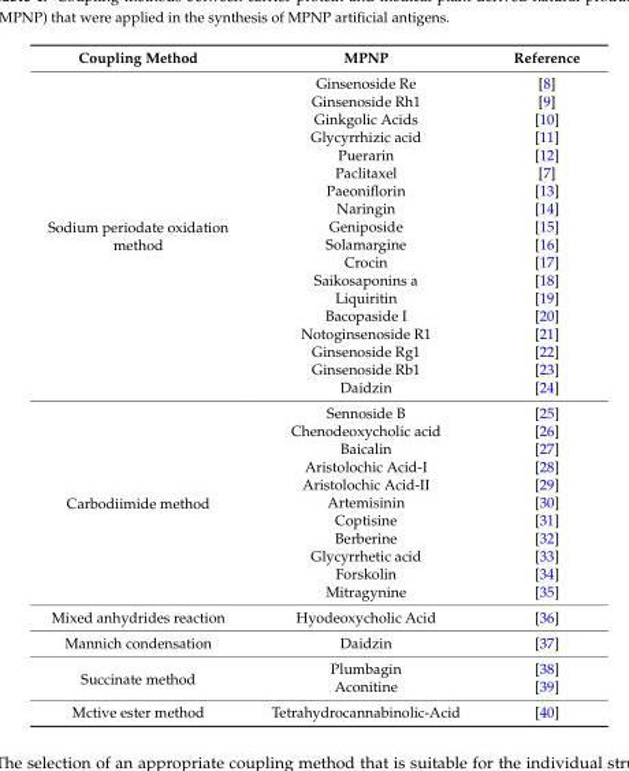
<table><thead><tr><td>Coupling Method</td><td>MPNP</td><td>Reference</td></tr></thead><tbody><tr><td rowspan="18">Sodium periodate oxidation method</td><td>Ginsenoside Re</td><td>[8]</td></tr><tr><td>Ginsenoside Rh1</td><td>[9]</td></tr><tr><td>Ginkgolic Acids</td><td>[10]</td></tr><tr><td>Glycyrrhizic acid</td><td>[11]</td></tr><tr><td>Puerarin</td><td>[12]</td></tr><tr><td>Paclitaxel</td><td>[7]</td></tr><tr><td>Paeoniflorin</td><td>[13]</td></tr><tr><td>Naringin</td><td>[14]</td></tr><tr><td>Geniposide</td><td>[15]</td></tr><tr><td>Solamargine</td><td>[16]</td></tr><tr><td>Crocin</td><td>[17]</td></tr><tr><td>Saikosaponins a</td><td>[18]</td></tr><tr><td>Liquiritin</td><td>[19]</td></tr><tr><td>Bacopaside I</td><td>[20]</td></tr><tr><td>Notoginsenoside R1</td><td>[21]</td></tr><tr><td>Ginsenoside Rg1</td><td>[22]</td></tr><tr><td>Ginsenoside Rb1</td><td>[23]</td></tr><tr><td>Daidzin</td><td>[24]</td></tr><tr><td rowspan="11">Carbodiimide method</td><td>Sennoside B</td><td>[25]</td></tr><tr><td>Chenodeoxycholic acid</td><td>[26]</td></tr><tr><td>Baicalin</td><td>[27]</td></tr><tr><td>Aristolochic Acid-I</td><td>[28]</td></tr><tr><td>Aristolochic Acid-II</td><td>[29]</td></tr><tr><td>Artemisinin</td><td>[30]</td></tr><tr><td>Coptisine</td><td>[31]</td></tr><tr><td>Berberine</td><td>[32]</td></tr><tr><td>Glycyrrhetic acid</td><td>[33]</td></tr><tr><td>Forskolin</td><td>[34]</td></tr><tr><td>Mitragynine</td><td>[35]</td></tr><tr><td>Mixed anhydrides reaction</td><td>Hyodeoxycholic Acid</td><td>[36]</td></tr><tr><td>Mannich condensation</td><td>Daidzin</td><td>[37]</td></tr><tr><td rowspan="2">Succinate method</td><td>Plumbagin</td><td>[38]</td></tr><tr><td>Aconitine</td><td>[39]</td></tr><tr><td>Mctive ester method</td><td>Tetrahydrocannabinolic-Acid</td><td>[40]</td></tr></tbody></table>